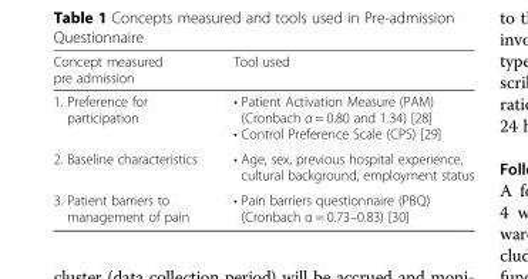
<table><thead><tr><td>Concept measured pre admission</td><td>Tool used</td></tr></thead><tbody><tr><td>1. Preference for participation</td><td>• Patient Activation Measure (PAM) (Cronbach α = 0.80 and 1.34) [28] • Control Preference Scale (CPS) [29]</td></tr><tr><td>2. Baseline characteristics</td><td>• Age, sex, previous hospital experience, cultural background, employment status</td></tr><tr><td>3. Patient barriers to management of pain</td><td>• Pain barriers questionnaire (PBQ) (Cronbach α = 0.73–0.83) [30]</td></tr></tbody></table>